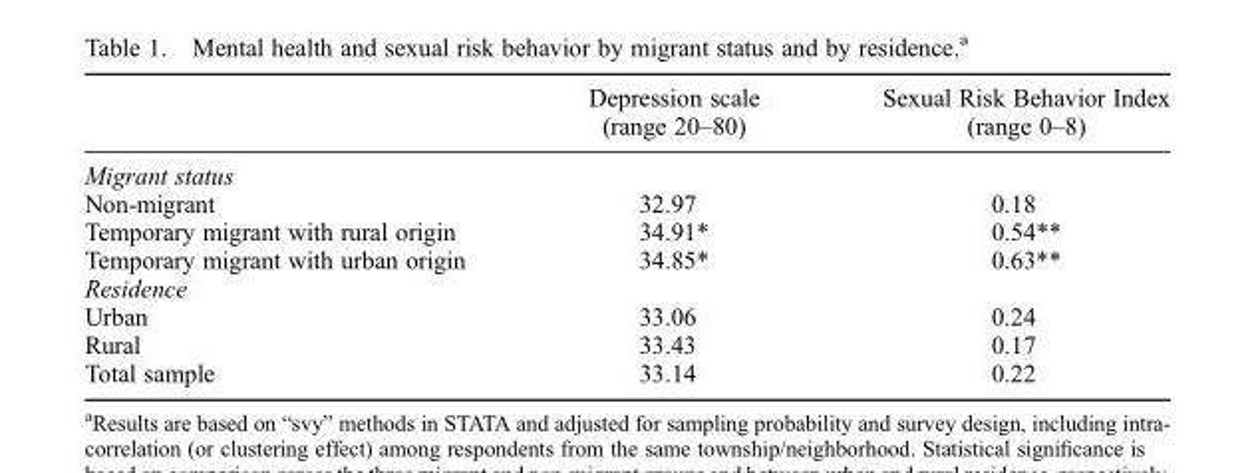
<table><thead><tr><td></td><td>Depression scale (range 20–80)</td><td>Sexual Risk Behavior Index (range 0–8)</td></tr></thead><tbody><tr><td colspan="3">Migrant status</td></tr><tr><td>Non-migrant</td><td>32.97</td><td>0.18</td></tr><tr><td>Temporary migrant with rural origin</td><td>34.91*</td><td>0.54**</td></tr><tr><td>Temporary migrant with urban origin</td><td>34.85*</td><td>0.63**</td></tr><tr><td colspan="3">Residence</td></tr><tr><td>Urban</td><td>33.06</td><td>0.24</td></tr><tr><td>Rural</td><td>33.43</td><td>0.17</td></tr><tr><td>Total sample</td><td>33.14</td><td>0.22</td></tr></tbody></table>